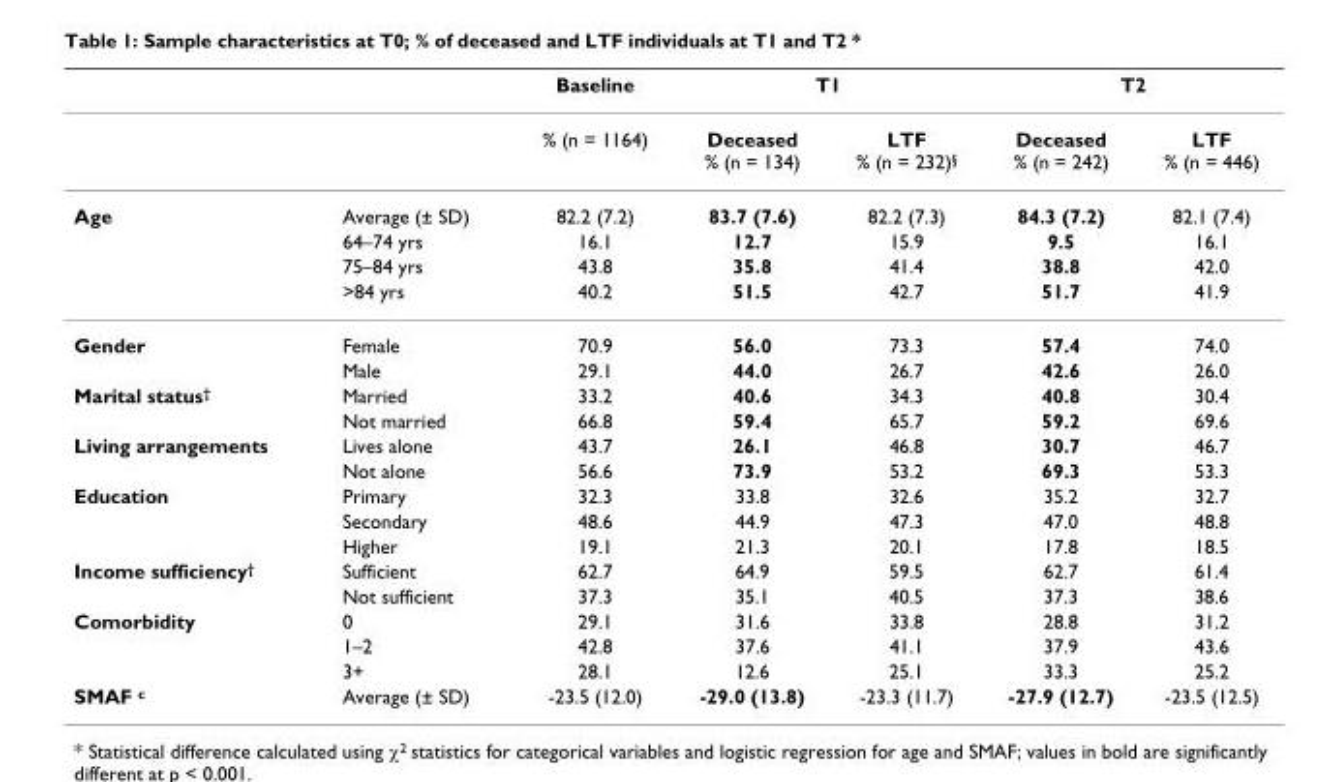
<table><thead><tr><td rowspan="2"></td><td rowspan="2"></td><td rowspan="2">Baseline % (n = 1164)</td><td colspan="2">T1</td><td colspan="2">T2</td></tr><tr><td>Deceased % (n = 134)</td><td>LTF % (n = 232)§</td><td>Deceased % (n = 242)</td><td>LTF % (n = 446)</td></tr></thead><tbody><tr><td rowspan="4">Age</td><td>Average (± SD)</td><td>82.2 (7.2)</td><td>83.7 (7.6)</td><td>82.2 (7.3)</td><td>84.3 (7.2)</td><td>82.1 (7.4)</td></tr><tr><td>64–74 yrs</td><td>16.1</td><td>12.7</td><td>15.9</td><td>9.5</td><td>16.1</td></tr><tr><td>75–84 yrs</td><td>43.8</td><td>35.8</td><td>41.4</td><td>38.8</td><td>42.0</td></tr><tr><td>&gt;84 yrs</td><td>40.2</td><td>51.5</td><td>42.7</td><td>51.7</td><td>41.9</td></tr><tr><td rowspan="2">Gender</td><td>Female</td><td>70.9</td><td>56.0</td><td>73.3</td><td>57.4</td><td>74.0</td></tr><tr><td>Male</td><td>29.1</td><td>44.0</td><td>26.7</td><td>42.6</td><td>26.0</td></tr><tr><td rowspan="2">Marital status<sup>†</sup></td><td>Married</td><td>33.2</td><td>40.6</td><td>34.3</td><td>40.8</td><td>30.4</td></tr><tr><td>Not married</td><td>66.8</td><td>59.4</td><td>65.7</td><td>59.2</td><td>69.6</td></tr><tr><td rowspan="2">Living arrangements</td><td>Lives alone</td><td>43.7</td><td>26.1</td><td>46.8</td><td>30.7</td><td>46.7</td></tr><tr><td>Not alone</td><td>56.6</td><td>73.9</td><td>53.2</td><td>69.3</td><td>53.3</td></tr><tr><td rowspan="3">Education</td><td>Primary</td><td>32.3</td><td>33.8</td><td>32.6</td><td>35.2</td><td>32.7</td></tr><tr><td>Secondary</td><td>48.6</td><td>44.9</td><td>47.3</td><td>47.0</td><td>48.8</td></tr><tr><td>Higher</td><td>19.1</td><td>21.3</td><td>20.1</td><td>17.8</td><td>18.5</td></tr><tr><td rowspan="2">Income sufficiency<sup>†</sup></td><td>Sufficient</td><td>62.7</td><td>64.9</td><td>59.5</td><td>62.7</td><td>61.4</td></tr><tr><td>Not sufficient</td><td>37.3</td><td>35.1</td><td>40.5</td><td>37.3</td><td>38.6</td></tr><tr><td rowspan="3">Comorbidity</td><td>0</td><td>29.1</td><td>31.6</td><td>33.8</td><td>28.8</td><td>31.2</td></tr><tr><td>1–2</td><td>42.8</td><td>37.6</td><td>41.1</td><td>37.9</td><td>43.6</td></tr><tr><td>3+</td><td>28.1</td><td>12.6</td><td>25.1</td><td>33.3</td><td>25.2</td></tr><tr><td>SMAF <sup>c</sup></td><td>Average (± SD)</td><td>-23.5 (12.0)</td><td>-29.0 (13.8)</td><td>-23.3 (11.7)</td><td>-27.9 (12.7)</td><td>-23.5 (12.5)</td></tr></tbody></table>